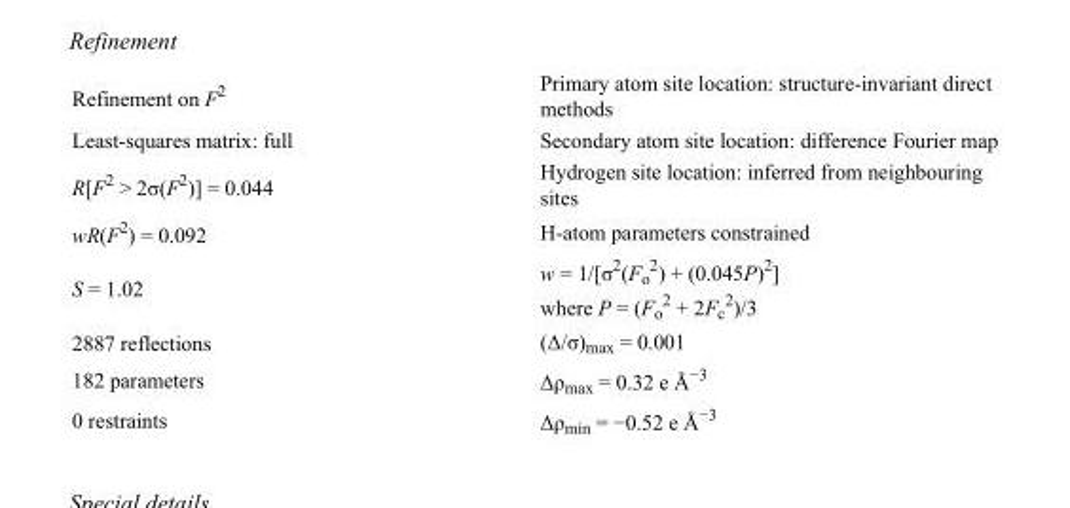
<table><tbody><tr><td>Refinement on F<sup>2</sup></td><td>Primary atom site location: structure-invariant direct methods</td></tr><tr><td>Least-squares matrix: full</td><td>Secondary atom site location: difference Fourier map</td></tr><tr><td>R[F<sup>2</sup> &gt; 2σ(F<sup>2</sup>)] = 0.044</td><td>Hydrogen site location: inferred from neighbouring sites</td></tr><tr><td>wR(F<sup>2</sup>) = 0.092</td><td>H-atom parameters constrained</td></tr><tr><td>S = 1.02</td><td>w = 1/[σ<sup>2</sup>(F<sub>o</sub> <sup>2</sup>) + (0.045P)<sup>2</sup>] where P = (F<sub>o</sub> <sup>2</sup> + 2F<sub>c</sub> <sup>2</sup>)/3</td></tr><tr><td>2887 reflections</td><td>(Δ/σ)<sub>max</sub> = 0.001</td></tr><tr><td>182 parameters</td><td>Δρ<sub>max</sub> = 0.32 e Å<sup>−3</sup></td></tr><tr><td>0 restraints</td><td>Δρ<sub>min</sub> = −0.52 e Å<sup>−3</sup></td></tr></tbody></table>